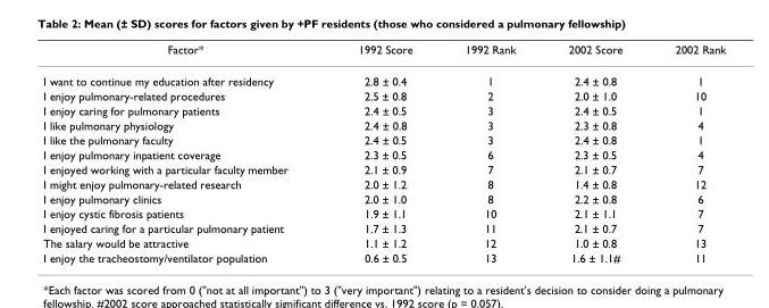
<table><thead><tr><td>Factor*</td><td>1992 Score</td><td>1992 Rank</td><td>2002 Score</td><td>2002 Rank</td></tr></thead><tbody><tr><td>I want to continue my education after residency</td><td>2.8 ± 0.4</td><td>1</td><td>2.4 ± 0.8</td><td>1</td></tr><tr><td>I enjoy pulmonary-related procedures</td><td>2.5 ± 0.8</td><td>2</td><td>2.0 ± 1.0</td><td>10</td></tr><tr><td>I enjoy caring for pulmonary patients</td><td>2.4 ± 0.5</td><td>3</td><td>2.4 ± 0.5</td><td>1</td></tr><tr><td>I like pulmonary physiology</td><td>2.4 ± 0.8</td><td>3</td><td>2.3 ± 0.8</td><td>4</td></tr><tr><td>I like the pulmonary faculty</td><td>2.4 ± 0.5</td><td>3</td><td>2.4 ± 0.8</td><td>1</td></tr><tr><td>I enjoy pulmonary inpatient coverage</td><td>2.3 ± 0.5</td><td>6</td><td>2.3 ± 0.5</td><td>4</td></tr><tr><td>I enjoyed working with a particular faculty member</td><td>2.1 ± 0.9</td><td>7</td><td>2.1 ± 0.7</td><td>7</td></tr><tr><td>I might enjoy pulmonary-related research</td><td>2.0 ± 1.2</td><td>8</td><td>1.4 ± 0.8</td><td>12</td></tr><tr><td>I enjoy pulmonary clinics</td><td>2.0 ± 1.0</td><td>8</td><td>2.2 ± 0.8</td><td>6</td></tr><tr><td>I enjoy cystic fibrosis patients</td><td>1.9 ± 1.1</td><td>10</td><td>2.1 ± 1.1</td><td>7</td></tr><tr><td>I enjoyed caring for a particular pulmonary patient</td><td>1.7 ± 1.3</td><td>11</td><td>2.1 ± 0.7</td><td>7</td></tr><tr><td>The salary would be attractive</td><td>1.1 ± 1.2</td><td>12</td><td>1.0 ± 0.8</td><td>13</td></tr><tr><td>I enjoy the tracheostomy/ventilator population</td><td>0.6 ± 0.5</td><td>13</td><td>1.6 ± 1.1#</td><td>11</td></tr></tbody></table>